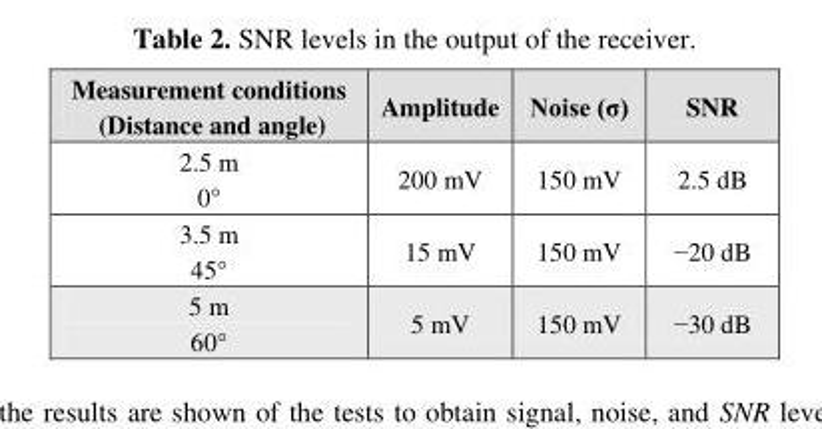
<table><thead><tr><td>Measurement conditions (Distance and angle)</td><td>Amplitude</td><td>Noise (σ)</td><td>SNR</td></tr></thead><tbody><tr><td>2.5 m 0°</td><td>200 mV</td><td>150 mV</td><td>2.5 dB</td></tr><tr><td>3.5 m 45°</td><td>15 mV</td><td>150 mV</td><td>−20 dB</td></tr><tr><td>5 m 60°</td><td>5 mV</td><td>150 mV</td><td>−30 dB</td></tr></tbody></table>